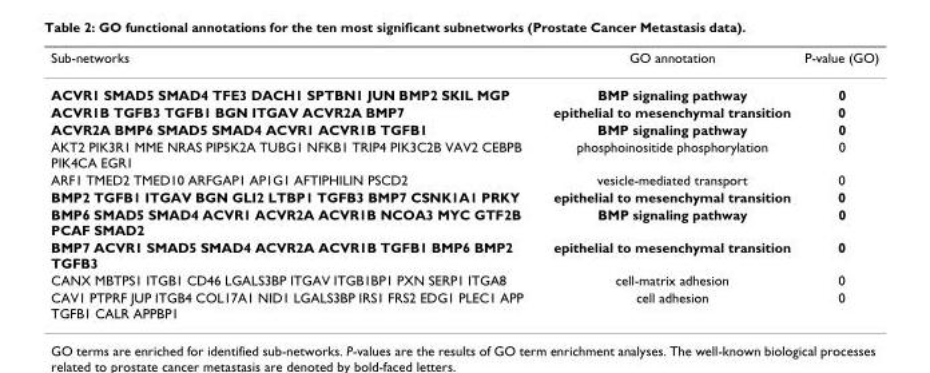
<table><thead><tr><td>Sub-networks</td><td>GO annotation</td><td>P-value (GO)</td></tr></thead><tbody><tr><td>ACVR1 SMAD5 SMAD4 TFE3 DACH1 SPTBN1 JUN BMP2 SKIL MGP</td><td>BMP signaling pathway</td><td>0</td></tr><tr><td>ACVR1B TGFB3 TGFB1 BGN ITGAV ACVR2A BMP7</td><td>epithelial to mesenchymal transition</td><td>0</td></tr><tr><td>ACVR2A BMP6 SMAD5 SMAD4 ACVR1 ACVR1B TGFB1</td><td>BMP signaling pathway</td><td>0</td></tr><tr><td>AKT2 PIK3R1 MME NRAS PIP5K2A TUBG1 NFKB1 TRIP4 PIK3C2B VAV2 CEBPB PIK4CA EGR1</td><td>phosphoinositide phosphorylation</td><td>0</td></tr><tr><td>ARF1 TMED2 TMED10 ARFGAP1 AP1G1 AFTIPHILIN PSCD2</td><td>vesicle-mediated transport</td><td>0</td></tr><tr><td>BMP2 TGFB1 ITGAV BGN GLI2 LTBP1 TGFB3 BMP7 CSNK1A1 PRKY</td><td>epithelial to mesenchymal transition</td><td>0</td></tr><tr><td>BMP6 SMAD5 SMAD4 ACVR1 ACVR2A ACVR1B NCOA3 MYC GTF2B PCAF SMAD2</td><td>BMP signaling pathway</td><td>0</td></tr><tr><td>BMP7 ACVR1 SMAD5 SMAD4 ACVR2A ACVR1B TGFB1 BMP6 BMP2 TGFB3</td><td>epithelial to mesenchymal transition</td><td>0</td></tr><tr><td>CANX MBTPS1 ITGB1 CD46 LGALS3BP ITGAV ITGB1BP1 PXN SERP1 ITGA8</td><td>cell-matrix adhesion</td><td>0</td></tr><tr><td>CAV1 PTPRF JUP ITGB4 COL17A1 NID1 LGALS3BP IRS1 FRS2 EDG1 PLEC1 APP TGFB1 CALR APPBP1</td><td>cell adhesion</td><td>0</td></tr></tbody></table>